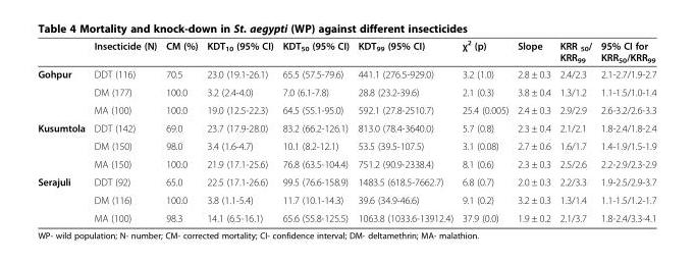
<table><thead><tr><td></td><td>Insecticide (N)</td><td>CM (%)</td><td>KDT<sub>10</sub> (95% CI)</td><td>KDT<sub>50</sub> (95% CI)</td><td>KDT<sub>99</sub> (95% CI)</td><td>χ<sup>2</sup> (p)</td><td>Slope</td><td>KRR <sub>50</sub>/ KRR<sub>99</sub></td><td>95% CI for KRR<sub>50</sub>/KRR<sub>99</sub></td></tr></thead><tbody><tr><td rowspan="3">Gohpur</td><td>DDT (116)</td><td>70.5</td><td>23.0 (19.1-26.1)</td><td>65.5 (57.5-79.6)</td><td>441.1 (276.5-929.0)</td><td>3.2 (1.0)</td><td>2.8 ± 0.3</td><td>2.4/2.3</td><td>2.1-2.7/1.9-2.7</td></tr><tr><td>DM (177)</td><td>100.0</td><td>3.2 (2.4-4.0)</td><td>7.0 (6.1-7.8)</td><td>28.8 (23.2-39.6)</td><td>2.1 (0.3)</td><td>3.8 ± 0.4</td><td>1.3/1.2</td><td>1.1-1.5/1.0-1.4</td></tr><tr><td>MA (100)</td><td>100.0</td><td>19.0 (12.5-22.3)</td><td>64.5 (55.1-95.0)</td><td>592.1 (27.8-2510.7)</td><td>25.4 (0.005)</td><td>2.4 ± 0.3</td><td>2.9/2.9</td><td>2.6-3.2/2.6-3.3</td></tr><tr><td rowspan="3">Kusumtola</td><td>DDT (142)</td><td>69.0</td><td>23.7 (17.9-28.0)</td><td>83.2 (66.2-126.1)</td><td>813.0 (78.4-3640.0)</td><td>5.7 (0.8)</td><td>2.3 ± 0.4</td><td>2.1/2.1</td><td>1.8-2.4/1.8-2.4</td></tr><tr><td>DM (150)</td><td>98.0</td><td>3.4 (1.6-4.7)</td><td>10.1 (8.2-12.1)</td><td>53.5 (39.5-107.5)</td><td>3.1 (0.08)</td><td>2.7 ± 0.6</td><td>1.6/1.7</td><td>1.4-1.9/1.5-1.9</td></tr><tr><td>MA (150)</td><td>100.0</td><td>21.9 (17.1-25.6)</td><td>76.8 (63.5-104.4)</td><td>751.2 (90.9-2338.4)</td><td>8.1 (0.6)</td><td>2.3 ± 0.3</td><td>2.5/2.6</td><td>2.2-2.9/2.3-2.9</td></tr><tr><td rowspan="3">Serajuli</td><td>DDT (92)</td><td>65.0</td><td>22.5 (17.1-26.6)</td><td>99.5 (76.6-158.9)</td><td>1483.5 (618.5-7662.7)</td><td>6.8 (0.7)</td><td>2.0 ± 0.3</td><td>2.2/3.3</td><td>1.9-2.5/2.9-3.7</td></tr><tr><td>DM (116)</td><td>100.0</td><td>3.8 (1.1-5.4)</td><td>11.7 (10.1-14.3)</td><td>39.6 (34.9-46.6)</td><td>9.1 (0.2)</td><td>3.2 ± 0.3</td><td>1.3/1.4</td><td>1.1-1.5/1.2-1.7</td></tr><tr><td>MA (100)</td><td>98.3</td><td>14.1 (6.5-16.1)</td><td>65.6 (55.8-125.5)</td><td>1063.8 (1033.6-13912.4)</td><td>37.9 (0.0)</td><td>1.9 ± 0.2</td><td>2.1/3.7</td><td>1.8-2.4/3.3-4.1</td></tr></tbody></table>